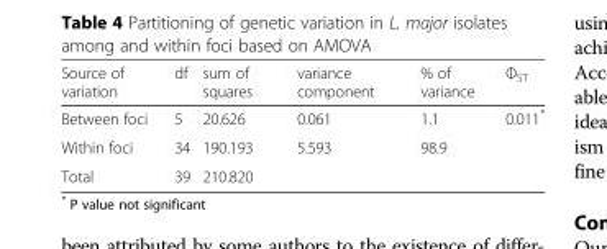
<table><thead><tr><td>Source of variation</td><td>df</td><td>sum of squares</td><td>variance component</td><td>% of variance</td><td>Φ<sub>ST</sub></td></tr></thead><tbody><tr><td>Between foci</td><td>5</td><td>20.626</td><td>0.061</td><td>1.1</td><td rowspan="2">0.011*</td></tr><tr><td>Within foci</td><td>34</td><td>190.193</td><td>5.593</td><td>98.9</td></tr><tr><td>Total</td><td>39</td><td>210.820</td><td></td><td></td><td></td></tr></tbody></table>